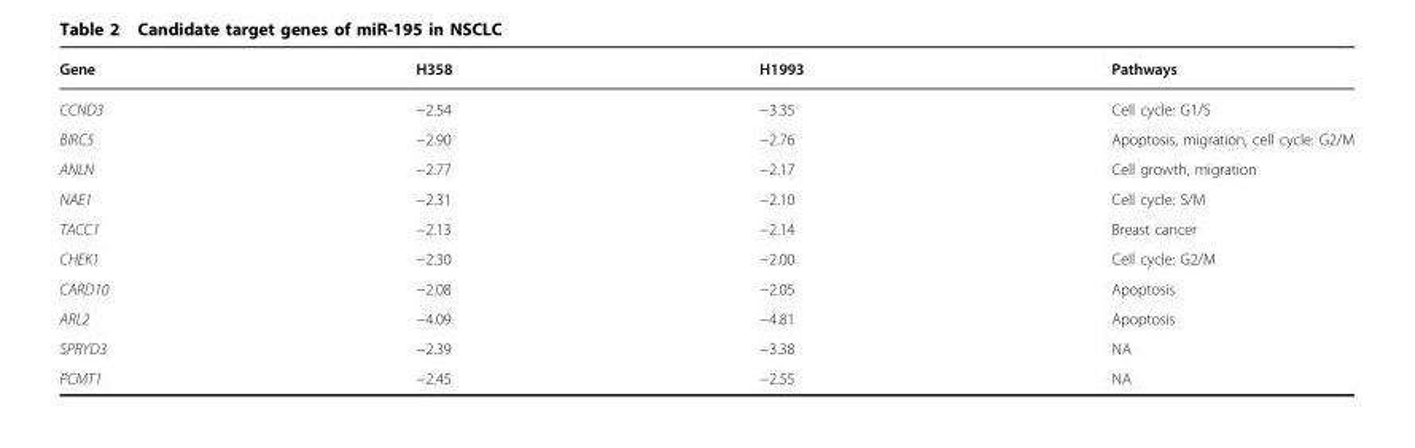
<table><thead><tr><td>Gene</td><td>H358</td><td>H1993</td><td>Pathways</td></tr></thead><tbody><tr><td>CCND3</td><td>−2.54</td><td>−3.35</td><td>Cell cycle: G1/S</td></tr><tr><td>BIRC5</td><td>−2.90</td><td>−2.76</td><td>Apoptosis, migration, cell cycle: G2/M</td></tr><tr><td>ANLN</td><td>−2.77</td><td>−2.17</td><td>Cell growth, migration</td></tr><tr><td>NAE1</td><td>−2.31</td><td>−2.10</td><td>Cell cycle: S/M</td></tr><tr><td>TACC1</td><td>−2.13</td><td>−2.14</td><td>Breast cancer</td></tr><tr><td>CHEK1</td><td>−2.30</td><td>−2.00</td><td>Cell cycle: G2/M</td></tr><tr><td>CARD10</td><td>−2.08</td><td>−2.05</td><td>Apoptosis</td></tr><tr><td>ARL2</td><td>−4.09</td><td>−4.81</td><td>Apoptosis</td></tr><tr><td>SPRYD3</td><td>−2.39</td><td>−3.38</td><td>NA</td></tr><tr><td>PCMT1</td><td>−2.45</td><td>−2.55</td><td>NA</td></tr></tbody></table>